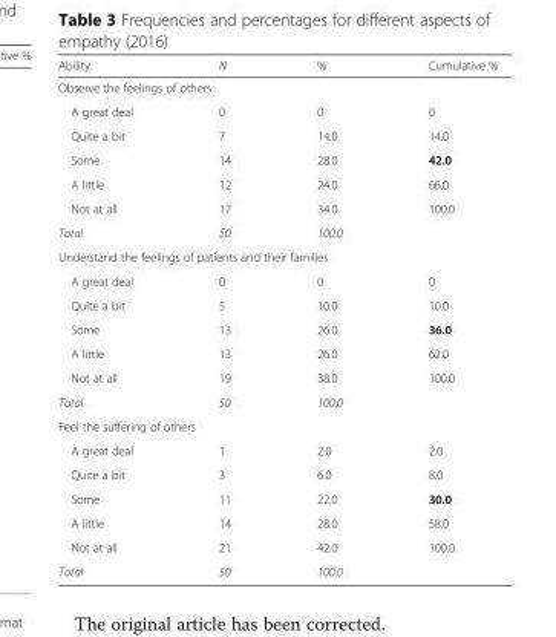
<table><thead><tr><td>Ability</td><td>N</td><td>%</td><td>Cumulative %</td></tr></thead><tbody><tr><td colspan="4">Observe the feelings of others</td></tr><tr><td>A great deal</td><td>0</td><td>0</td><td>0</td></tr><tr><td>Quite a bit</td><td>7</td><td>14.0</td><td>14.0</td></tr><tr><td>Some</td><td>14</td><td>28.0</td><td>42.0</td></tr><tr><td>A little</td><td>12</td><td>24.0</td><td>66.0</td></tr><tr><td>Not at all</td><td>17</td><td>34.0</td><td>100.0</td></tr><tr><td>Total</td><td>50</td><td>100.0</td><td></td></tr><tr><td colspan="4">Understand the feelings of patients and their families</td></tr><tr><td>A great deal</td><td>0</td><td>0</td><td>0</td></tr><tr><td>Quite a bit</td><td>5</td><td>10.0</td><td>10.0</td></tr><tr><td>Some</td><td>13</td><td>26.0</td><td>36.0</td></tr><tr><td>A little</td><td>13</td><td>26.0</td><td>62.0</td></tr><tr><td>Not at all</td><td>19</td><td>38.0</td><td>100.0</td></tr><tr><td>Total</td><td>50</td><td>100.0</td><td></td></tr><tr><td colspan="4">Feel the suffering of others</td></tr><tr><td>A great deal</td><td>1</td><td>2.0</td><td>2.0</td></tr><tr><td>Quite a bit</td><td>3</td><td>6.0</td><td>8.0</td></tr><tr><td>Some</td><td>11</td><td>22.0</td><td>30.0</td></tr><tr><td>A little</td><td>14</td><td>28.0</td><td>58.0</td></tr><tr><td>Not at all</td><td>21</td><td>42.0</td><td>100.0</td></tr><tr><td>Total</td><td>50</td><td>100.0</td><td></td></tr></tbody></table>